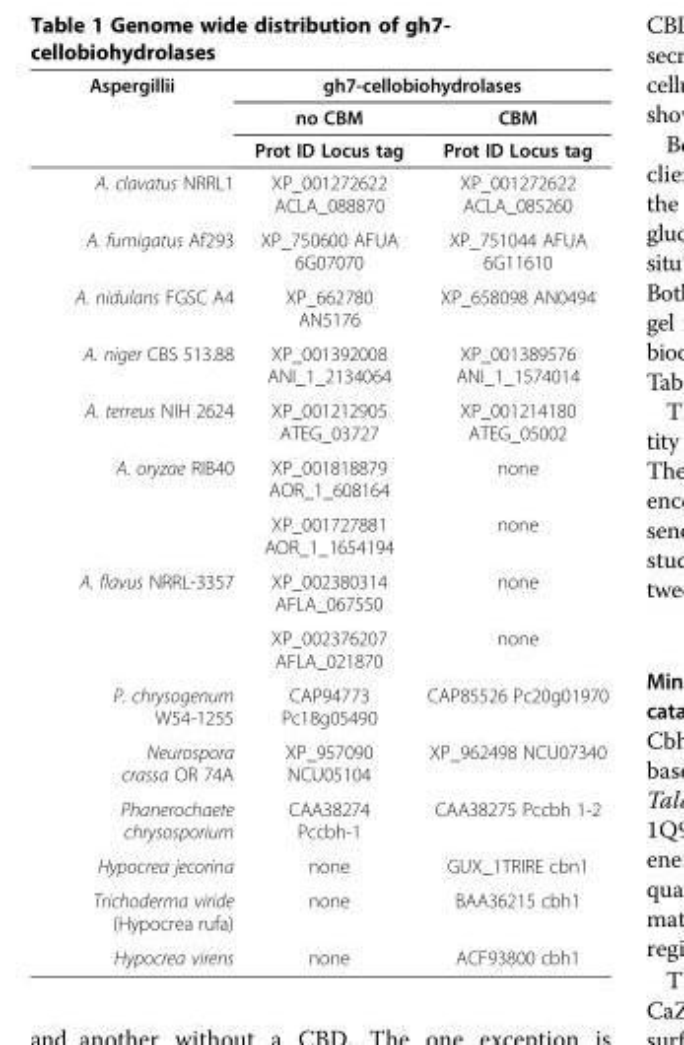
<table><thead><tr><td rowspan="3">Aspergillii</td><td colspan="2">gh7-cellobiohydrolases</td></tr><tr><td rowspan="2">no CBM Prot ID Locus tag</td><td rowspan="2">CBM Prot ID Locus tag</td></tr><tr></tr></thead><tbody><tr><td>A. clavatus NRRL1</td><td>XP_001272622 ACLA_088870</td><td>XP_001272622 ACLA_085260</td></tr><tr><td>A. fumigatus Af293</td><td>XP_750600 AFUA 6G07070</td><td>XP_751044 AFUA 6G11610</td></tr><tr><td>A. nidulans FGSC A4</td><td>XP_662780 AN5176</td><td>XP_658098 AN0494</td></tr><tr><td>A. niger CBS 513.88</td><td>XP_001392008 ANI_1_2134064</td><td>XP_001389576 ANI_1_1574014</td></tr><tr><td>A. terreus NIH 2624</td><td>XP_001212905 ATEG_03727</td><td>XP_001214180 ATEG_05002</td></tr><tr><td rowspan="2">A. oryzae RIB40</td><td>XP_001818879 AOR_1_608164</td><td>none</td></tr><tr><td>XP_001727881 AOR_1_1654194</td><td>none</td></tr><tr><td rowspan="2">A. flavus NRRL-3357</td><td>XP_002380314 AFLA_067550</td><td>none</td></tr><tr><td>XP_002376207 AFLA_021870</td><td>none</td></tr><tr><td>P. chrysogenum W54-1255</td><td>CAP94773 Pc18g05490</td><td>CAP85526 Pc20g01970</td></tr><tr><td>Neurospora crassa OR 74A</td><td>XP_957090 NCU05104</td><td>XP_962498 NCU07340</td></tr><tr><td>Phanerochaete chrysosporium</td><td>CAA38274 Pccbh-1</td><td>CAA38275 Pccbh 1-2</td></tr><tr><td>Hypocrea jecorina</td><td>none</td><td>GUX_1TRIRE cbn1</td></tr><tr><td>Trichoderma viride (Hypocrea rufa)</td><td>none</td><td>BAA36215 cbh1</td></tr><tr><td>Hypocrea virens</td><td>none</td><td>ACF93800 cbh1</td></tr></tbody></table>